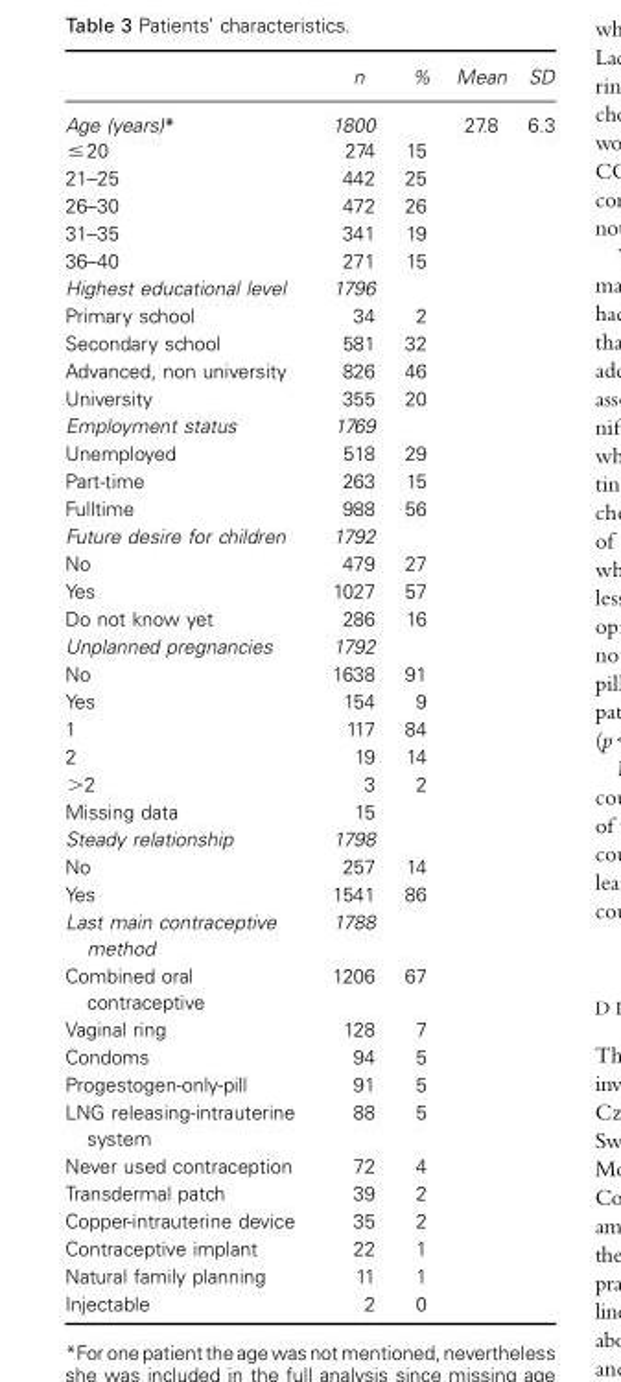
<table><thead><tr><td></td><td>n</td><td>%</td><td>Mean</td><td>SD</td></tr></thead><tbody><tr><td>Age (years) *</td><td>1800</td><td></td><td>27.8</td><td>6.3</td></tr><tr><td>≤ 20</td><td>274</td><td>15</td><td></td><td></td></tr><tr><td>21 – 25</td><td>442</td><td>25</td><td></td><td></td></tr><tr><td>26 – 30</td><td>472</td><td>26</td><td></td><td></td></tr><tr><td>31 – 35</td><td>341</td><td>19</td><td></td><td></td></tr><tr><td>36 – 40</td><td>271</td><td>15</td><td></td><td></td></tr><tr><td>Highest educational level</td><td>1796</td><td></td><td></td><td></td></tr><tr><td>Primary school</td><td>34</td><td>2</td><td></td><td></td></tr><tr><td>Secondary school</td><td>581</td><td>32</td><td></td><td></td></tr><tr><td>Advanced, non university</td><td>826</td><td>46</td><td></td><td></td></tr><tr><td>University</td><td>355</td><td>20</td><td></td><td></td></tr><tr><td>Employment status</td><td>1769</td><td></td><td></td><td></td></tr><tr><td>Unemployed</td><td>518</td><td>29</td><td></td><td></td></tr><tr><td>Part-time</td><td>263</td><td>15</td><td></td><td></td></tr><tr><td>Fulltime</td><td>988</td><td>56</td><td></td><td></td></tr><tr><td>Future desire for children</td><td>1792</td><td></td><td></td><td></td></tr><tr><td>No</td><td>479</td><td>27</td><td></td><td></td></tr><tr><td>Yes</td><td>1027</td><td>57</td><td></td><td></td></tr><tr><td>Do not know yet</td><td>286</td><td>16</td><td></td><td></td></tr><tr><td>Unplanned pregnancies</td><td>1792</td><td></td><td></td><td></td></tr><tr><td>No</td><td>1638</td><td>91</td><td></td><td></td></tr><tr><td>Yes</td><td>154</td><td>9</td><td></td><td></td></tr><tr><td>1</td><td>117</td><td>84</td><td></td><td></td></tr><tr><td>2</td><td>19</td><td>14</td><td></td><td></td></tr><tr><td>&gt; 2</td><td>3</td><td>2</td><td></td><td></td></tr><tr><td>Missing data</td><td>15</td><td></td><td></td><td></td></tr><tr><td>Steady relationship</td><td>1798</td><td></td><td></td><td></td></tr><tr><td>No</td><td>257</td><td>14</td><td></td><td></td></tr><tr><td>Yes</td><td>1541</td><td>86</td><td></td><td></td></tr><tr><td>Last main contraceptive</td><td>1788</td><td></td><td></td><td></td></tr><tr><td colspan="5">method</td></tr><tr><td>Combined oral</td><td>1206</td><td>67</td><td></td><td></td></tr><tr><td colspan="5">contraceptive</td></tr><tr><td>Vaginal ring</td><td>128</td><td>7</td><td></td><td></td></tr><tr><td>Condoms</td><td>94</td><td>5</td><td></td><td></td></tr><tr><td>Progestogen-only-pill</td><td>91</td><td>5</td><td></td><td></td></tr><tr><td>LNG releasing-intrauterine</td><td>88</td><td>5</td><td></td><td></td></tr><tr><td colspan="5">system</td></tr><tr><td>Never used contraception</td><td>72</td><td>4</td><td></td><td></td></tr><tr><td>Transdermal patch</td><td>39</td><td>2</td><td></td><td></td></tr><tr><td>Copper-intrauterine device</td><td>35</td><td>2</td><td></td><td></td></tr><tr><td>Contraceptive implant</td><td>22</td><td>1</td><td></td><td></td></tr><tr><td>Natural family planning</td><td>11</td><td>1</td><td></td><td></td></tr><tr><td>Injectable</td><td>2</td><td>0</td><td></td><td></td></tr></tbody></table>